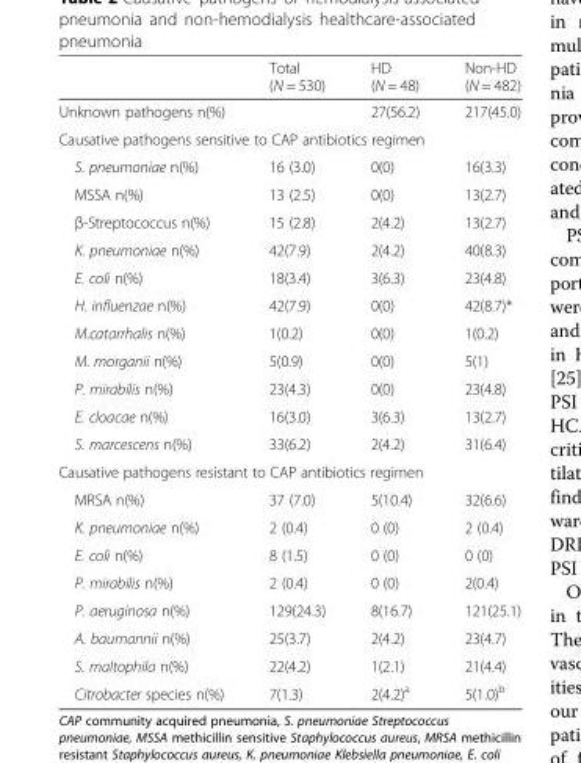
<table><thead><tr><td></td><td>Total (N = 530)</td><td>HD (N = 48)</td><td>Non-HD (N = 482)</td></tr></thead><tbody><tr><td colspan="2">Unknown pathogens n(%)</td><td>27(56.2)</td><td>217(45.0)</td></tr><tr><td colspan="4">Causative pathogens sensitive to CAP antibiotics regimen</td></tr><tr><td>S. pneumoniae n(%)</td><td>16 (3.0)</td><td>0(0)</td><td>16(3.3)</td></tr><tr><td>MSSA n(%)</td><td>13 (2.5)</td><td>0(0)</td><td>13(2.7)</td></tr><tr><td>β-Streptococcus n(%)</td><td>15 (2.8)</td><td>2(4.2)</td><td>13(2.7)</td></tr><tr><td>K. pneumoniae n(%)</td><td>42(7.9)</td><td>2(4.2)</td><td>40(8.3)</td></tr><tr><td>E. coli n(%)</td><td>18(3.4)</td><td>3(6.3)</td><td>23(4.8)</td></tr><tr><td>H. influenzae n(%)</td><td>42(7.9)</td><td>0(0)</td><td>42(8.7)*</td></tr><tr><td>M.catarrhalis n(%)</td><td>1(0.2)</td><td>0(0)</td><td>1(0.2)</td></tr><tr><td>M. morganii n(%)</td><td>5(0.9)</td><td>0(0)</td><td>5(1)</td></tr><tr><td>P. mirabilis n(%)</td><td>23(4.3)</td><td>0(0)</td><td>23(4.8)</td></tr><tr><td>E. cloacae n(%)</td><td>16(3.0)</td><td>3(6.3)</td><td>13(2.7)</td></tr><tr><td>S. marcescens n(%)</td><td>33(6.2)</td><td>2(4.2)</td><td>31(6.4)</td></tr><tr><td colspan="4">Causative pathogens resistant to CAP antibiotics regimen</td></tr><tr><td>MRSA n(%)</td><td>37 (7.0)</td><td>5(10.4)</td><td>32(6.6)</td></tr><tr><td>K. pneumoniae n(%)</td><td>2 (0.4)</td><td>0 (0)</td><td>2 (0.4)</td></tr><tr><td>E. coli n(%)</td><td>8 (1.5)</td><td>0 (0)</td><td>0 (0)</td></tr><tr><td>P. mirabilis n(%)</td><td>2 (0.4)</td><td>0 (0)</td><td>2(0.4)</td></tr><tr><td>P. aeruginosa n(%)</td><td>129(24.3)</td><td>8(16.7)</td><td>121(25.1)</td></tr><tr><td>A. baumannii n(%)</td><td>25(3.7)</td><td>2(4.2)</td><td>23(4.7)</td></tr><tr><td>S. maltophila n(%)</td><td>22(4.2)</td><td>1(2.1)</td><td>21(4.4)</td></tr><tr><td>Citrobacter species n(%)</td><td>7(1.3)</td><td>2(4.2)<sup>a</sup></td><td>5(1.0)<sup>b</sup></td></tr></tbody></table>